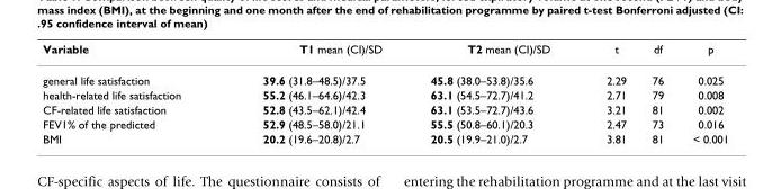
<table><thead><tr><td>Variable</td><td>T1 mean (CI)/SD</td><td>T2 mean (CI)/SD</td><td>t</td><td>df</td><td>p</td></tr></thead><tbody><tr><td>general life satisfaction</td><td>39.6 (31.8–48.5)/37.5</td><td>45.8 (38.0–53.8)/35.6</td><td>2.29</td><td>76</td><td>0.025</td></tr><tr><td>health-related life satisfaction</td><td>55.2 (46.1–64.6)/42.3</td><td>63.1 (54.5–72.7)/41.2</td><td>2.71</td><td>79</td><td>0.008</td></tr><tr><td>CF-related life satisfaction</td><td>52.8 (43.5–62.1)/42.4</td><td>63.1 (53.5–72.7)/43.6</td><td>3.21</td><td>81</td><td>0.002</td></tr><tr><td>FEV1% of the predicted</td><td>52.9 (48.5–58.0)/21.1</td><td>55.5 (50.8–60.1)/20.3</td><td>2.47</td><td>73</td><td>0.016</td></tr><tr><td>BMI</td><td>20.2 (19.6–20.8)/2.7</td><td>20.5 (19.9–21.0)/2.7</td><td>3.81</td><td>81</td><td>&lt; 0.001</td></tr></tbody></table>